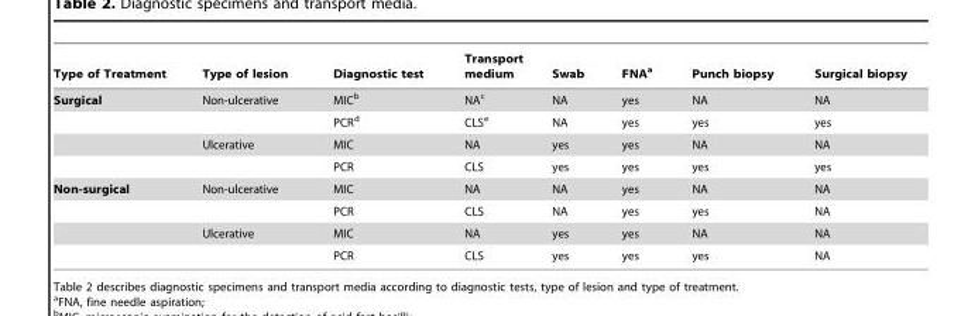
<table><thead><tr><td>Type of Treatment</td><td>Type of lesion</td><td>Diagnostic test</td><td>Transport medium</td><td>Swab</td><td>FNA<sup>a</sup></td><td>Punch biopsy</td><td>Surgical biopsy</td></tr></thead><tbody><tr><td rowspan="4">Surgical</td><td>Non-ulcerative</td><td>MIC<sup>b</sup></td><td>NA<sup>c</sup></td><td>NA</td><td>yes</td><td>NA</td><td>NA</td></tr><tr><td></td><td>PCR<sup>d</sup></td><td>CLS<sup>e</sup></td><td>NA</td><td>yes</td><td>yes</td><td>yes</td></tr><tr><td>Ulcerative</td><td>MIC</td><td>NA</td><td>yes</td><td>yes</td><td>NA</td><td>NA</td></tr><tr><td></td><td>PCR</td><td>CLS</td><td>yes</td><td>yes</td><td>yes</td><td>yes</td></tr><tr><td rowspan="4">Non-surgical</td><td>Non-ulcerative</td><td>MIC</td><td>NA</td><td>NA</td><td>yes</td><td>NA</td><td>NA</td></tr><tr><td></td><td>PCR</td><td>CLS</td><td>NA</td><td>yes</td><td>yes</td><td>NA</td></tr><tr><td>Ulcerative</td><td>MIC</td><td>NA</td><td>yes</td><td>yes</td><td>NA</td><td>NA</td></tr><tr><td></td><td>PCR</td><td>CLS</td><td>yes</td><td>yes</td><td>yes</td><td>NA</td></tr></tbody></table>